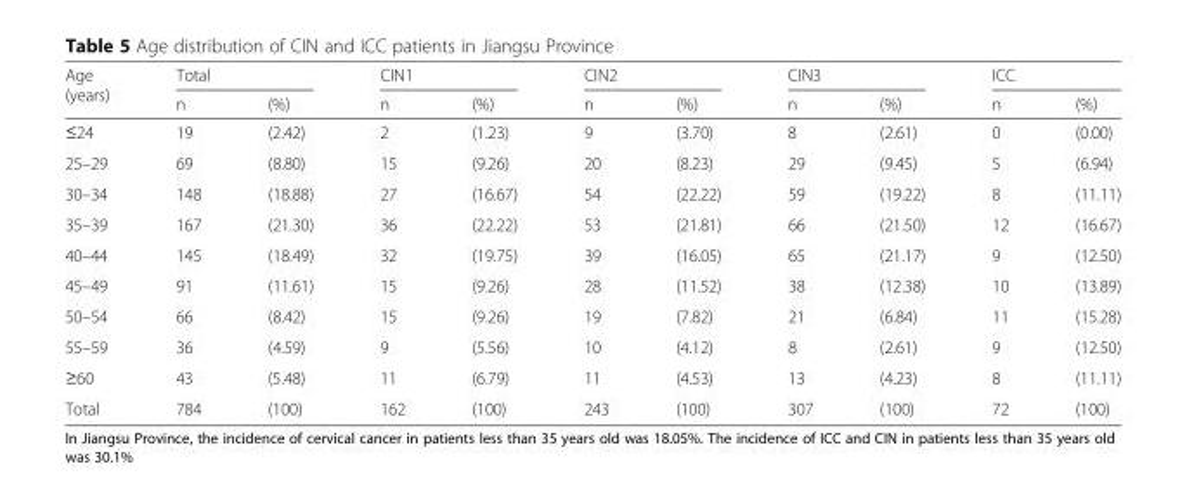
<table><thead><tr><td rowspan="2">Age (years)</td><td colspan="2">Total</td><td colspan="2">CIN1</td><td colspan="2">CIN2</td><td colspan="2">CIN3</td><td colspan="2">ICC</td></tr><tr><td>n</td><td>(%)</td><td>n</td><td>(%)</td><td>n</td><td>(%)</td><td>n</td><td>(%)</td><td>n</td><td>(%)</td></tr></thead><tbody><tr><td>≤24</td><td>19</td><td>(2.42)</td><td>2</td><td>(1.23)</td><td>9</td><td>(3.70)</td><td>8</td><td>(2.61)</td><td>0</td><td>(0.00)</td></tr><tr><td>25–29</td><td>69</td><td>(8.80)</td><td>15</td><td>(9.26)</td><td>20</td><td>(8.23)</td><td>29</td><td>(9.45)</td><td>5</td><td>(6.94)</td></tr><tr><td>30–34</td><td>148</td><td>(18.88)</td><td>27</td><td>(16.67)</td><td>54</td><td>(22.22)</td><td>59</td><td>(19.22)</td><td>8</td><td>(11.11)</td></tr><tr><td>35–39</td><td>167</td><td>(21.30)</td><td>36</td><td>(22.22)</td><td>53</td><td>(21.81)</td><td>66</td><td>(21.50)</td><td>12</td><td>(16.67)</td></tr><tr><td>40–44</td><td>145</td><td>(18.49)</td><td>32</td><td>(19.75)</td><td>39</td><td>(16.05)</td><td>65</td><td>(21.17)</td><td>9</td><td>(12.50)</td></tr><tr><td>45–49</td><td>91</td><td>(11.61)</td><td>15</td><td>(9.26)</td><td>28</td><td>(11.52)</td><td>38</td><td>(12.38)</td><td>10</td><td>(13.89)</td></tr><tr><td>50–54</td><td>66</td><td>(8.42)</td><td>15</td><td>(9.26)</td><td>19</td><td>(7.82)</td><td>21</td><td>(6.84)</td><td>11</td><td>(15.28)</td></tr><tr><td>55–59</td><td>36</td><td>(4.59)</td><td>9</td><td>(5.56)</td><td>10</td><td>(4.12)</td><td>8</td><td>(2.61)</td><td>9</td><td>(12.50)</td></tr><tr><td>≥60</td><td>43</td><td>(5.48)</td><td>11</td><td>(6.79)</td><td>11</td><td>(4.53)</td><td>13</td><td>(4.23)</td><td>8</td><td>(11.11)</td></tr><tr><td>Total</td><td>784</td><td>(100)</td><td>162</td><td>(100)</td><td>243</td><td>(100)</td><td>307</td><td>(100)</td><td>72</td><td>(100)</td></tr></tbody></table>